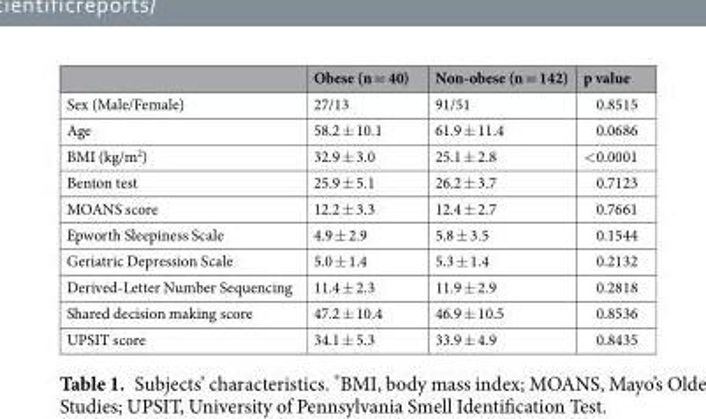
<table><thead><tr><td></td><td>Obese (n = 40)</td><td>Non-obese (n = 142)</td><td>p value</td></tr></thead><tbody><tr><td>Sex (Male/Female)</td><td>27/13</td><td>91/51</td><td>0.8515</td></tr><tr><td>Age</td><td>58.2 ± 10.1</td><td>61.9 ± 11.4</td><td>0.0686</td></tr><tr><td>BMI (kg/m<sup>2</sup>)</td><td>32.9 ± 3.0</td><td>25.1 ± 2.8</td><td>&lt;0.0001</td></tr><tr><td>Benton test</td><td>25.9 ± 5.1</td><td>26.2 ± 3.7</td><td>0.7123</td></tr><tr><td>MOANS score</td><td>12.2 ± 3.3</td><td>12.4 ± 2.7</td><td>0.7661</td></tr><tr><td>Epworth Sleepiness Scale</td><td>4.9 ± 2.9</td><td>5.8 ± 3.5</td><td>0.1544</td></tr><tr><td>Geriatric Depression Scale</td><td>5.0 ± 1.4</td><td>5.3 ± 1.4</td><td>0.2132</td></tr><tr><td>Derived-Letter Number Sequencing</td><td>11.4 ± 2.3</td><td>11.9 ± 2.9</td><td>0.2818</td></tr><tr><td>Shared decision making score</td><td>47.2 ± 10.4</td><td>46.9 ± 10.5</td><td>0.8536</td></tr><tr><td>UPSIT score</td><td>34.1 ± 5.3</td><td>33.9 ± 4.9</td><td>0.8435</td></tr></tbody></table>